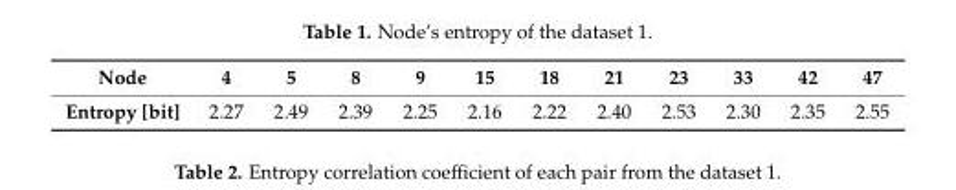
<table><thead><tr><td>Node</td><td>4</td><td>5</td><td>8</td><td>9</td><td>15</td><td>18</td><td>21</td><td>23</td><td>33</td><td>42</td><td>47</td></tr></thead><tbody><tr><td>Entropy [bit]</td><td>2.27</td><td>2.49</td><td>2.39</td><td>2.25</td><td>2.16</td><td>2.22</td><td>2.40</td><td>2.53</td><td>2.30</td><td>2.35</td><td>2.55</td></tr></tbody></table>